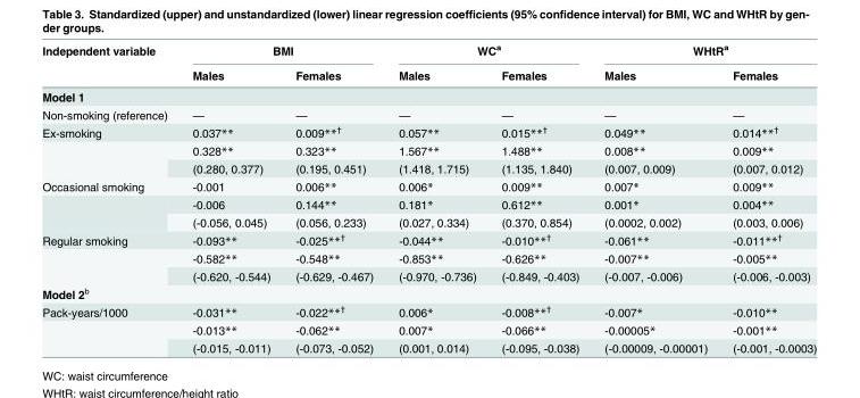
<table><thead><tr><td rowspan="2">Independent variable</td><td colspan="2">BMI</td><td colspan="2">WC<sup>a</sup></td><td colspan="2">WHtR<sup>a</sup></td></tr><tr><td>Males</td><td>Females</td><td>Males</td><td>Females</td><td>Males</td><td>Females</td></tr></thead><tbody><tr><td colspan="7">Model 1</td></tr><tr><td>Non-smoking (reference)</td><td>—</td><td>—</td><td>—</td><td>—</td><td>—</td><td>—</td></tr><tr><td rowspan="3">Ex-smoking</td><td>0.037**</td><td>0.009**<sup>†</sup></td><td>0.057**</td><td>0.015**<sup>†</sup></td><td>0.049**</td><td>0.014**<sup>†</sup></td></tr><tr><td>0.328**</td><td>0.323**</td><td>1.567**</td><td>1.488**</td><td>0.008**</td><td>0.009**</td></tr><tr><td>(0.280, 0.377)</td><td>(0.195, 0.451)</td><td>(1.418, 1.715)</td><td>(1.135, 1.840)</td><td>(0.007, 0.009)</td><td>(0.007, 0.012)</td></tr><tr><td rowspan="3">Occasional smoking</td><td>-0.001</td><td>0.006**</td><td>0.006*</td><td>0.009**</td><td>0.007*</td><td>0.009**</td></tr><tr><td>-0.006</td><td>0.144**</td><td>0.181*</td><td>0.612**</td><td>0.001*</td><td>0.004**</td></tr><tr><td>(-0.056, 0.045)</td><td>(0.056, 0.233)</td><td>(0.027, 0.334)</td><td>(0.370, 0.854)</td><td>(0.0002, 0.002)</td><td>(0.003, 0.006)</td></tr><tr><td rowspan="3">Regular smoking</td><td>-0.093**</td><td>-0.025**<sup>†</sup></td><td>-0.044**</td><td>-0.010**<sup>†</sup></td><td>-0.061**</td><td>-0.011**<sup>†</sup></td></tr><tr><td>-0.582**</td><td>-0.548**</td><td>-0.853**</td><td>-0.626**</td><td>-0.007**</td><td>-0.005**</td></tr><tr><td>(-0.620, -0.544)</td><td>(-0.629, -0.467)</td><td>(-0.970, -0.736)</td><td>(-0.849, -0.403)</td><td>(-0.007, -0.006)</td><td>(-0.006, -0.003)</td></tr><tr><td colspan="7">Model 2<sup>b</sup></td></tr><tr><td rowspan="3">Pack-years/1000</td><td>-0.031**</td><td>-0.022**<sup>†</sup></td><td>0.006*</td><td>-0.008**<sup>†</sup></td><td>-0.007*</td><td>-0.010**</td></tr><tr><td>-0.013**</td><td>-0.062**</td><td>0.007*</td><td>-0.066**</td><td>-0.00005*</td><td>-0.001**</td></tr><tr><td>(-0.015, -0.011)</td><td>(-0.073, -0.052)</td><td>(0.001, 0.014)</td><td>(-0.095, -0.038)</td><td>(-0.00009, -0.00001)</td><td>(-0.001, -0.0003)</td></tr></tbody></table>